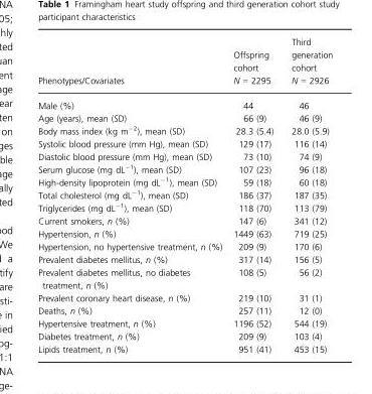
<table><thead><tr><td>Phenotypes/Covariates</td><td>Offspring cohort N = 2295</td><td>Third generation cohort N = 2926</td></tr></thead><tbody><tr><td>Male (%)</td><td>44</td><td>46</td></tr><tr><td>Age (years), mean (SD)</td><td>66 (9)</td><td>46 (9)</td></tr><tr><td>Body mass index (kg m<sup>−2</sup>), mean (SD)</td><td>28.3 (5.4)</td><td>28.0 (5.9)</td></tr><tr><td>Systolic blood pressure (mm Hg), mean (SD)</td><td>129 (17)</td><td>116 (14)</td></tr><tr><td>Diastolic blood pressure (mm Hg), mean (SD)</td><td>73 (10)</td><td>74 (9)</td></tr><tr><td>Serum glucose (mg dL<sup>−1</sup>), mean (SD)</td><td>107 (23)</td><td>96 (18)</td></tr><tr><td>High-density lipoprotein (mg dL<sup>−1</sup>), mean (SD)</td><td>59 (18)</td><td>60 (18)</td></tr><tr><td>Total cholesterol (mg dL<sup>−1</sup>), mean (SD)</td><td>186 (37)</td><td>187 (35)</td></tr><tr><td>Triglycerides (mg dL<sup>−1</sup>), mean (SD)</td><td>118 (70)</td><td>113 (79)</td></tr><tr><td>Current smokers, n (%)</td><td>147 (6)</td><td>341 (12)</td></tr><tr><td>Hypertension, n (%)</td><td>1449 (63)</td><td>719 (25)</td></tr><tr><td>Hypertension, no hypertensive treatment, n (%)</td><td>209 (9)</td><td>170 (6)</td></tr><tr><td>Prevalent diabetes mellitus, n (%)</td><td>317 (14)</td><td>156 (5)</td></tr><tr><td>Prevalent diabetes mellitus, no diabetes treatment, n (%)</td><td>108 (5)</td><td>56 (2)</td></tr><tr><td>Prevalent coronary heart disease, n (%)</td><td>219 (10)</td><td>31 (1)</td></tr><tr><td>Deaths, n (%)</td><td>257 (11)</td><td>12 (0)</td></tr><tr><td>Hypertensive treatment, n (%)</td><td>1196 (52)</td><td>544 (19)</td></tr><tr><td>Diabetes treatment, n (%)</td><td>209 (9)</td><td>103 (4)</td></tr><tr><td>Lipids treatment, n (%)</td><td>951 (41)</td><td>453 (15)</td></tr></tbody></table>